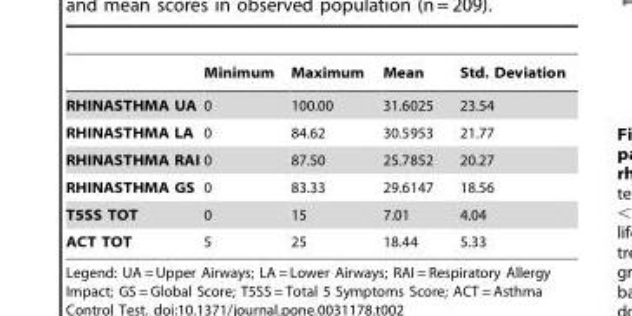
<table><thead><tr><td></td><td>Minimum</td><td>Maximum</td><td>Mean</td><td>Std. Deviation</td></tr></thead><tbody><tr><td>RHINASTHMA UA</td><td>0</td><td>100.00</td><td>31.6025</td><td>23.54</td></tr><tr><td>RHINASTHMA LA</td><td>0</td><td>84.62</td><td>30.5953</td><td>21.77</td></tr><tr><td>RHINASTHMA RAI</td><td>0</td><td>87.50</td><td>25.7852</td><td>20.27</td></tr><tr><td>RHINASTHMA GS</td><td>0</td><td>83.33</td><td>29.6147</td><td>18.56</td></tr><tr><td>T5SS TOT</td><td>0</td><td>15</td><td>7.01</td><td>4.04</td></tr><tr><td>ACT TOT</td><td>5</td><td>25</td><td>18.44</td><td>5.33</td></tr></tbody></table>